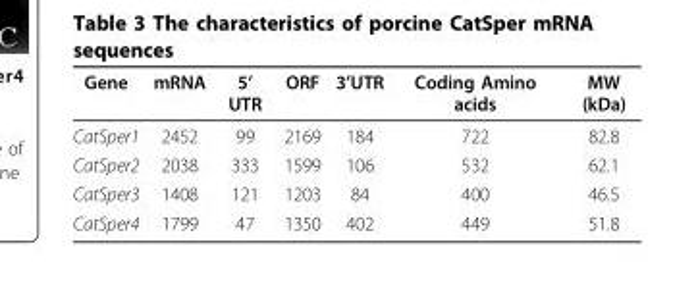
<table><thead><tr><td>Gene</td><td>mRNA</td><td>5’ UTR</td><td>ORF</td><td>3’UTR</td><td>Coding Amino acids</td><td>MW (kDa)</td></tr></thead><tbody><tr><td>CatSper1</td><td>2452</td><td>99</td><td>2169</td><td>184</td><td>722</td><td>82.8</td></tr><tr><td>CatSper2</td><td>2038</td><td>333</td><td>1599</td><td>106</td><td>532</td><td>62.1</td></tr><tr><td>CatSper3</td><td>1408</td><td>121</td><td>1203</td><td>84</td><td>400</td><td>46.5</td></tr><tr><td>CatSper4</td><td>1799</td><td>47</td><td>1350</td><td>402</td><td>449</td><td>51.8</td></tr></tbody></table>